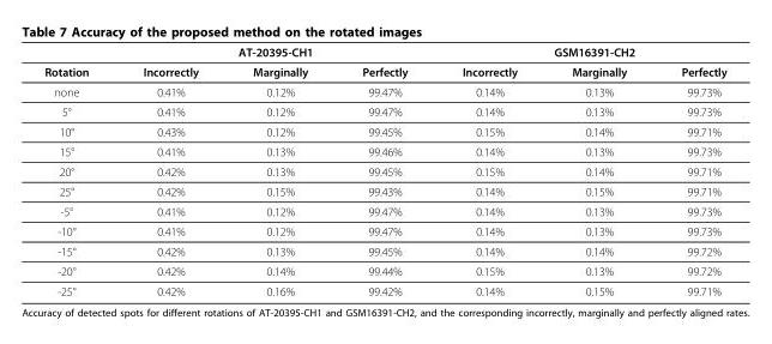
<table><thead><tr><td rowspan="2">Rotation</td><td colspan="3">AT-20395-CH1</td><td colspan="3">GSM16391-CH2</td></tr><tr><td>Incorrectly</td><td>Marginally</td><td>Perfectly</td><td>Incorrectly</td><td>Marginally</td><td>Perfectly</td></tr></thead><tbody><tr><td>none</td><td>0.41%</td><td>0.12%</td><td>99.47%</td><td>0.14%</td><td>0.13%</td><td>99.73%</td></tr><tr><td>5°</td><td>0.41%</td><td>0.12%</td><td>99.47%</td><td>0.14%</td><td>0.13%</td><td>99.73%</td></tr><tr><td>10°</td><td>0.43%</td><td>0.12%</td><td>99.45%</td><td>0.15%</td><td>0.14%</td><td>99.71%</td></tr><tr><td>15°</td><td>0.41%</td><td>0.13%</td><td>99.46%</td><td>0.14%</td><td>0.13%</td><td>99.73%</td></tr><tr><td>20°</td><td>0.42%</td><td>0.13%</td><td>99.45%</td><td>0.15%</td><td>0.14%</td><td>99.71%</td></tr><tr><td>25°</td><td>0.42%</td><td>0.15%</td><td>99.43%</td><td>0.14%</td><td>0.15%</td><td>99.71%</td></tr><tr><td>-5°</td><td>0.41%</td><td>0.12%</td><td>99.47%</td><td>0.14%</td><td>0.13%</td><td>99.73%</td></tr><tr><td>-10°</td><td>0.41%</td><td>0.12%</td><td>99.47%</td><td>0.14%</td><td>0.13%</td><td>99.73%</td></tr><tr><td>-15°</td><td>0.42%</td><td>0.13%</td><td>99.45%</td><td>0.14%</td><td>0.14%</td><td>99.72%</td></tr><tr><td>-20°</td><td>0.42%</td><td>0.14%</td><td>99.44%</td><td>0.15%</td><td>0.13%</td><td>99.72%</td></tr><tr><td>-25°</td><td>0.42%</td><td>0.16%</td><td>99.42%</td><td>0.14%</td><td>0.15%</td><td>99.71%</td></tr></tbody></table>